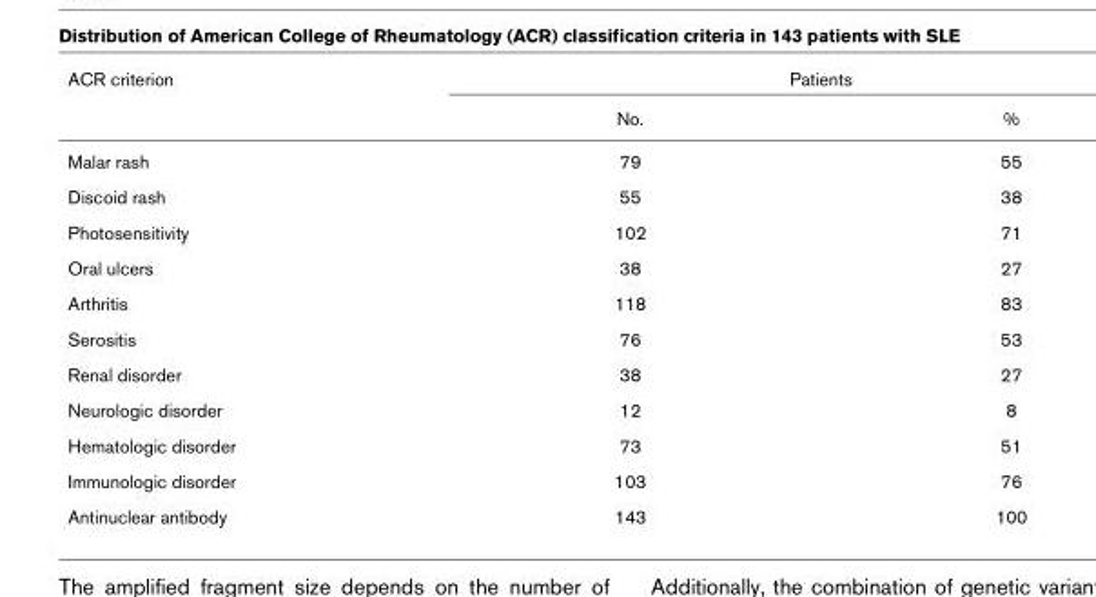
<table><thead><tr><td rowspan="2">ACR criterion</td><td colspan="2">Patients</td></tr><tr><td>No.</td><td>%</td></tr></thead><tbody><tr><td>Malar rash</td><td>79</td><td>55</td></tr><tr><td>Discoid rash</td><td>55</td><td>38</td></tr><tr><td>Photosensitivity</td><td>102</td><td>71</td></tr><tr><td>Oral ulcers</td><td>38</td><td>27</td></tr><tr><td>Arthritis</td><td>118</td><td>83</td></tr><tr><td>Serositis</td><td>76</td><td>53</td></tr><tr><td>Renal disorder</td><td>38</td><td>27</td></tr><tr><td>Neurologic disorder</td><td>12</td><td>8</td></tr><tr><td>Hematologic disorder</td><td>73</td><td>51</td></tr><tr><td>Immunologic disorder</td><td>103</td><td>76</td></tr><tr><td>Antinuclear antibody</td><td>143</td><td>100</td></tr></tbody></table>